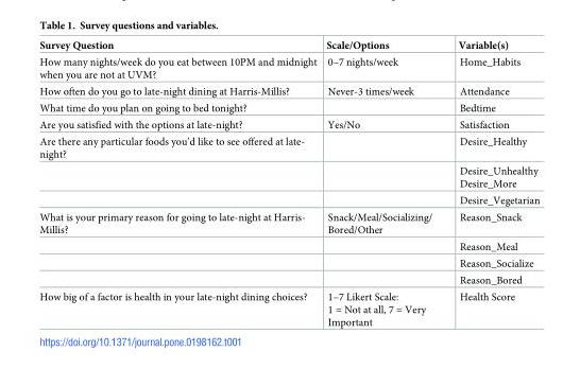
<table><thead><tr><td>Survey Question</td><td>Scale/Options</td><td>Variable(s)</td></tr></thead><tbody><tr><td>How many nights/week do you eat between 10PM and midnight when you are not at UVM?</td><td>0–7 nights/week</td><td>Home_Habits</td></tr><tr><td>How often do you go to late-night dining at Harris-Millis?</td><td>Never-3 times/week</td><td>Attendance</td></tr><tr><td>What time do you plan on going to bed tonight?</td><td></td><td>Bedtime</td></tr><tr><td>Are you satisfied with the options at late-night?</td><td>Yes/No</td><td>Satisfaction</td></tr><tr><td rowspan="3">Are there any particular foods you’d like to see offered at late- night?</td><td></td><td>Desire_Healthy</td></tr><tr><td></td><td>Desire_Unhealthy Desire_More</td></tr><tr><td></td><td>Desire_Vegetarian</td></tr><tr><td rowspan="4">What is your primary reason for going to late-night at Harris- Millis?</td><td>Snack/Meal/Socializing/ Bored/Other</td><td>Reason_Snack</td></tr><tr><td></td><td>Reason_Meal</td></tr><tr><td></td><td>Reason_Socialize</td></tr><tr><td></td><td>Reason_Bored</td></tr><tr><td>How big of a factor is health in your late-night dining choices?</td><td>1–7 Likert Scale: 1 = Not at all, 7 = Very Important</td><td>Health Score</td></tr></tbody></table>